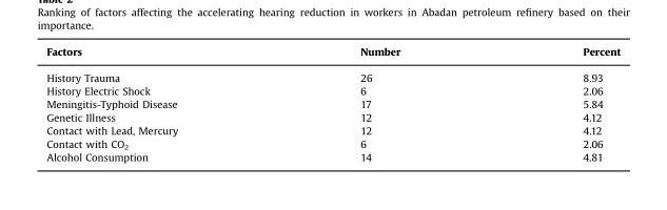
<table><thead><tr><td>Factors</td><td>Number</td><td>Percent</td></tr></thead><tbody><tr><td>History Trauma</td><td>26</td><td>8.93</td></tr><tr><td>History Electric Shock</td><td>6</td><td>2.06</td></tr><tr><td>Meningitis-Typhoid Disease</td><td>17</td><td>5.84</td></tr><tr><td>Genetic Illness</td><td>12</td><td>4.12</td></tr><tr><td>Contact with Lead, Mercury</td><td>12</td><td>4.12</td></tr><tr><td>Contact with CO<sub>2</sub></td><td>6</td><td>2.06</td></tr><tr><td>Alcohol Consumption</td><td>14</td><td>4.81</td></tr></tbody></table>